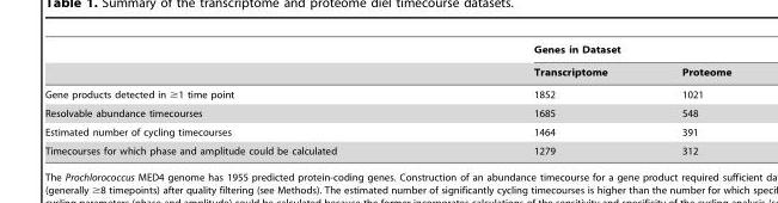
<table><thead><tr><td rowspan="2"></td><td colspan="2">Genes in Dataset</td></tr><tr><td>Transcriptome</td><td>Proteome</td></tr></thead><tbody><tr><td>Gene products detected in ≥1 time point</td><td>1852</td><td>1021</td></tr><tr><td>Resolvable abundance timecourses</td><td>1685</td><td>548</td></tr><tr><td>Estimated number of cycling timecourses</td><td>1464</td><td>391</td></tr><tr><td>Timecourses for which phase and amplitude could be calculated</td><td>1279</td><td>312</td></tr></tbody></table>